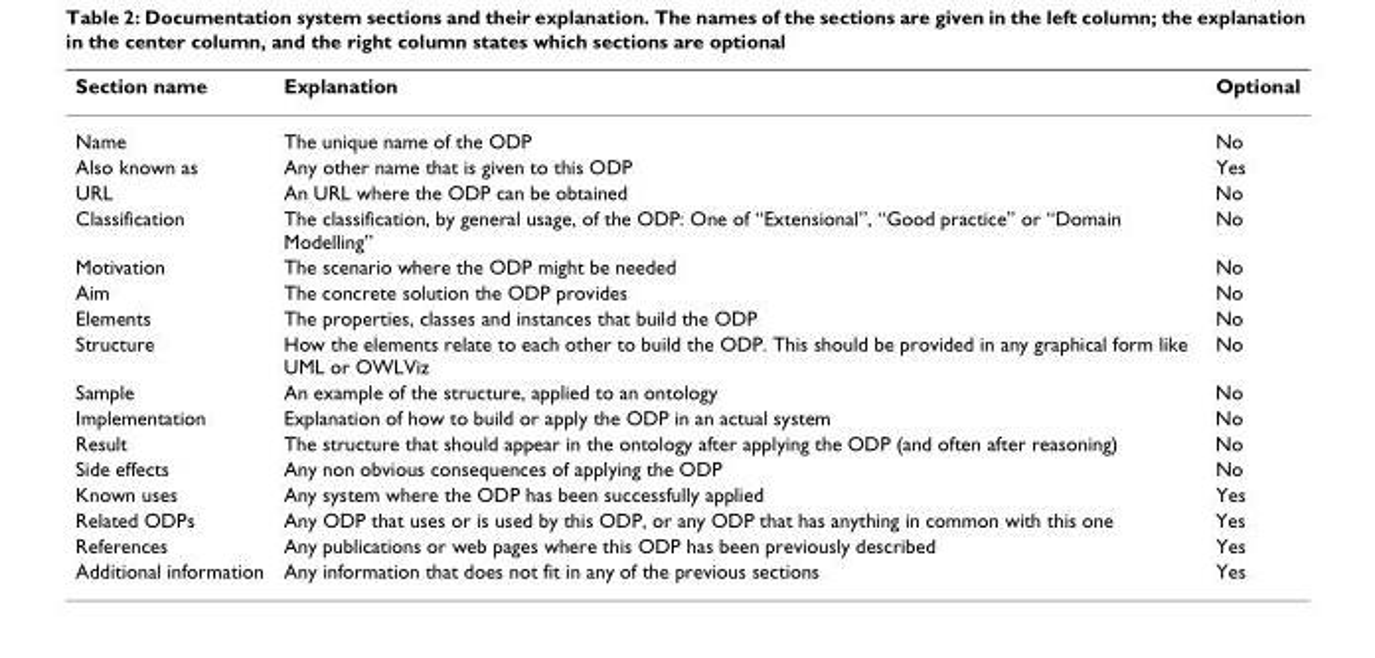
<table><thead><tr><td>Section name</td><td>Explanation</td><td>Optional</td></tr></thead><tbody><tr><td>Name</td><td>The unique name of the ODP</td><td>No</td></tr><tr><td>Also known as</td><td>Any other name that is given to this ODP</td><td>Yes</td></tr><tr><td>URL</td><td>An URL where the ODP can be obtained</td><td>No</td></tr><tr><td>Classification</td><td>The classification, by general usage, of the ODP: One of “Extensional”, “Good practice” or “Domain Modelling”</td><td>No</td></tr><tr><td>Motivation</td><td>The scenario where the ODP might be needed</td><td>No</td></tr><tr><td>Aim</td><td>The concrete solution the ODP provides</td><td>No</td></tr><tr><td>Elements</td><td>The properties, classes and instances that build the ODP</td><td>No</td></tr><tr><td>Structure</td><td>How the elements relate to each other to build the ODP. This should be provided in any graphical form like UML or OWLViz</td><td>No</td></tr><tr><td>Sample</td><td>An example of the structure, applied to an ontology</td><td>No</td></tr><tr><td>Implementation</td><td>Explanation of how to build or apply the ODP in an actual system</td><td>No</td></tr><tr><td>Result</td><td>The structure that should appear in the ontology after applying the ODP (and often after reasoning)</td><td>No</td></tr><tr><td>Side effects</td><td>Any non obvious consequences of applying the ODP</td><td>No</td></tr><tr><td>Known uses</td><td>Any system where the ODP has been successfully applied</td><td>Yes</td></tr><tr><td>Related ODPs</td><td>Any ODP that uses or is used by this ODP, or any ODP that has anything in common with this one</td><td>Yes</td></tr><tr><td>References</td><td>Any publications or web pages where this ODP has been previously described</td><td>Yes</td></tr><tr><td>Additional information</td><td>Any information that does not fit in any of the previous sections</td><td>Yes</td></tr></tbody></table>